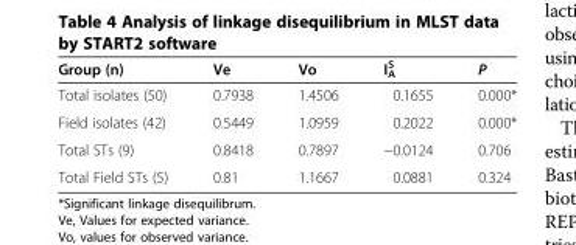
<table><thead><tr><td>Group (n)</td><td>Ve</td><td>Vo</td><td>I<sup>S</sup> <sub>A</sub></td><td>P</td></tr></thead><tbody><tr><td>Total isolates (50)</td><td>0.7938</td><td>1.4506</td><td>0.1655</td><td>0.000*</td></tr><tr><td>Field isolates (42)</td><td>0.5449</td><td>1.0959</td><td>0.2022</td><td>0.000*</td></tr><tr><td>Total STs (9)</td><td>0.8418</td><td>0.7897</td><td>−0.0124</td><td>0.706</td></tr><tr><td>Total Field STs (5)</td><td>0.81</td><td>1.1667</td><td>0.0881</td><td>0.324</td></tr></tbody></table>